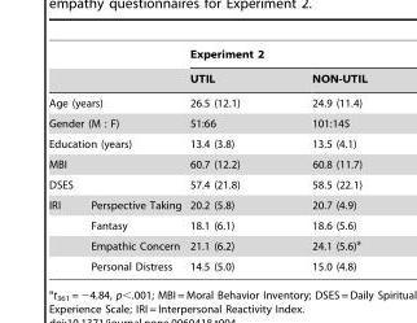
<table><thead><tr><td rowspan="2"></td><td rowspan="2"></td><td colspan="2">Experiment 2</td></tr><tr><td>UTIL</td><td>NON-UTIL</td></tr></thead><tbody><tr><td colspan="2">Age (years)</td><td>26.5 (12.1)</td><td>24.9 (11.4)</td></tr><tr><td colspan="2">Gender (M : F)</td><td>51:66</td><td>101:145</td></tr><tr><td colspan="2">Education (years)</td><td>13.4 (3.8)</td><td>13.5 (4.1)</td></tr><tr><td colspan="2">MBI</td><td>60.7 (12.2)</td><td>60.8 (11.7)</td></tr><tr><td colspan="2">DSES</td><td>57.4 (21.8)</td><td>58.5 (22.1)</td></tr><tr><td rowspan="4">IRI</td><td>Perspective Taking</td><td>20.2 (5.8)</td><td>20.7 (4.9)</td></tr><tr><td>Fantasy</td><td>18.1 (6.1)</td><td>18.6 (5.6)</td></tr><tr><td>Empathic Concern</td><td>21.1 (6.2)</td><td>24.1 (5.6)<sup>a</sup></td></tr><tr><td>Personal Distress</td><td>14.5 (5.0)</td><td>15.0 (4.8)</td></tr></tbody></table>